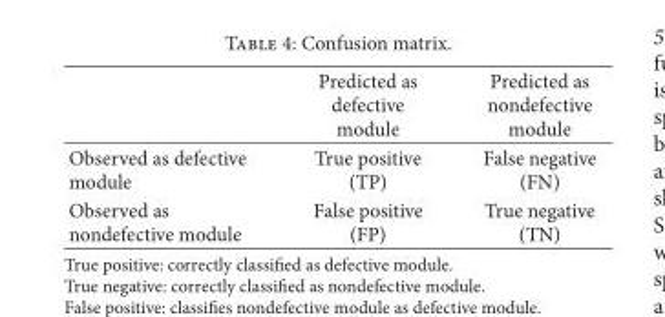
<table><thead><tr><td></td><td>Predicted as defective module</td><td>Predicted as nondefective module</td></tr></thead><tbody><tr><td>Observed as defective module</td><td>True positive (TP)</td><td>False negative (FN)</td></tr><tr><td>Observed as nondefective module</td><td>False positive (FP)</td><td>True negative (TN)</td></tr></tbody></table>